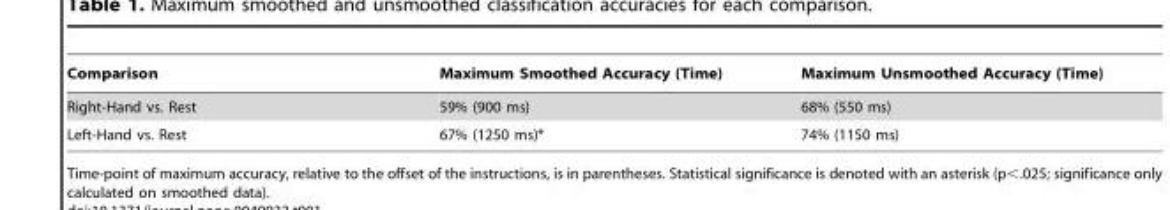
<table><thead><tr><td>Comparison</td><td>Maximum Smoothed Accuracy (Time)</td><td>Maximum Unsmoothed Accuracy (Time)</td></tr></thead><tbody><tr><td>Right-Hand vs. Rest</td><td>59% (900 ms)</td><td>68% (550 ms)</td></tr><tr><td>Left-Hand vs. Rest</td><td>67% (1250 ms)*</td><td>74% (1150 ms)</td></tr></tbody></table>